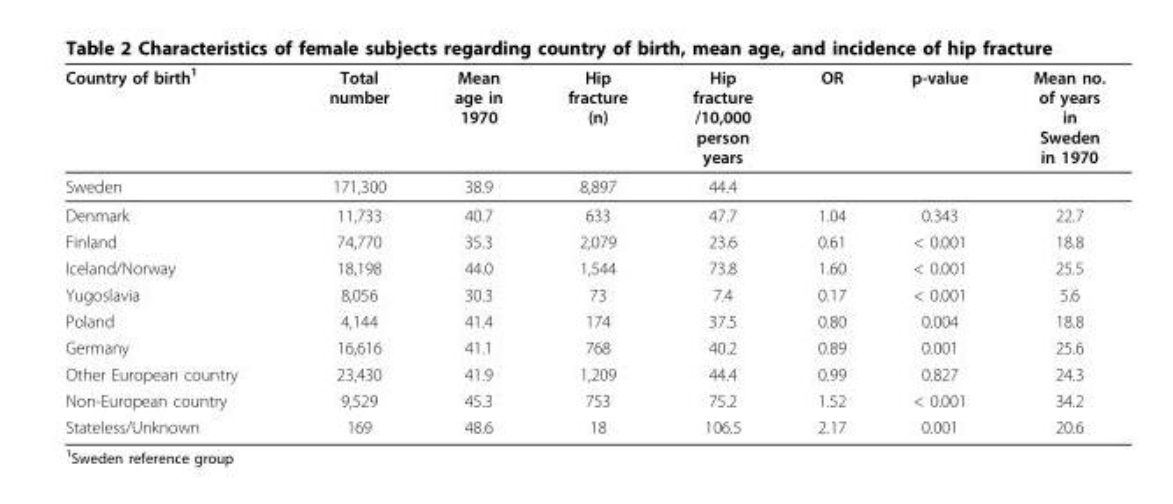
<table><thead><tr><td>Country of birth<sup>1</sup></td><td>Total number</td><td>Mean age in 1970</td><td>Hip fracture (n)</td><td>Hip fracture /10,000 person years</td><td>OR</td><td>p-value</td><td>Mean no. of years in Sweden in 1970</td></tr></thead><tbody><tr><td>Sweden</td><td>171,300</td><td>38.9</td><td>8,897</td><td>44.4</td><td></td><td></td><td></td></tr><tr><td>Denmark</td><td>11,733</td><td>40.7</td><td>633</td><td>47.7</td><td>1.04</td><td>0.343</td><td>22.7</td></tr><tr><td>Finland</td><td>74,770</td><td>35.3</td><td>2,079</td><td>23.6</td><td>0.61</td><td>&lt; 0.001</td><td>18.8</td></tr><tr><td>Iceland/Norway</td><td>18,198</td><td>44.0</td><td>1,544</td><td>73.8</td><td>1.60</td><td>&lt; 0.001</td><td>25.5</td></tr><tr><td>Yugoslavia</td><td>8,056</td><td>30.3</td><td>73</td><td>7.4</td><td>0.17</td><td>&lt; 0.001</td><td>5.6</td></tr><tr><td>Poland</td><td>4,144</td><td>41.4</td><td>174</td><td>37.5</td><td>0.80</td><td>0.004</td><td>18.8</td></tr><tr><td>Germany</td><td>16,616</td><td>41.1</td><td>768</td><td>40.2</td><td>0.89</td><td>0.001</td><td>25.6</td></tr><tr><td>Other European country</td><td>23,430</td><td>41.9</td><td>1,209</td><td>44.4</td><td>0.99</td><td>0.827</td><td>24.3</td></tr><tr><td>Non-European country</td><td>9,529</td><td>45.3</td><td>753</td><td>75.2</td><td>1.52</td><td>&lt; 0.001</td><td>34.2</td></tr><tr><td>Stateless/Unknown</td><td>169</td><td>48.6</td><td>18</td><td>106.5</td><td>2.17</td><td>0.001</td><td>20.6</td></tr></tbody></table>